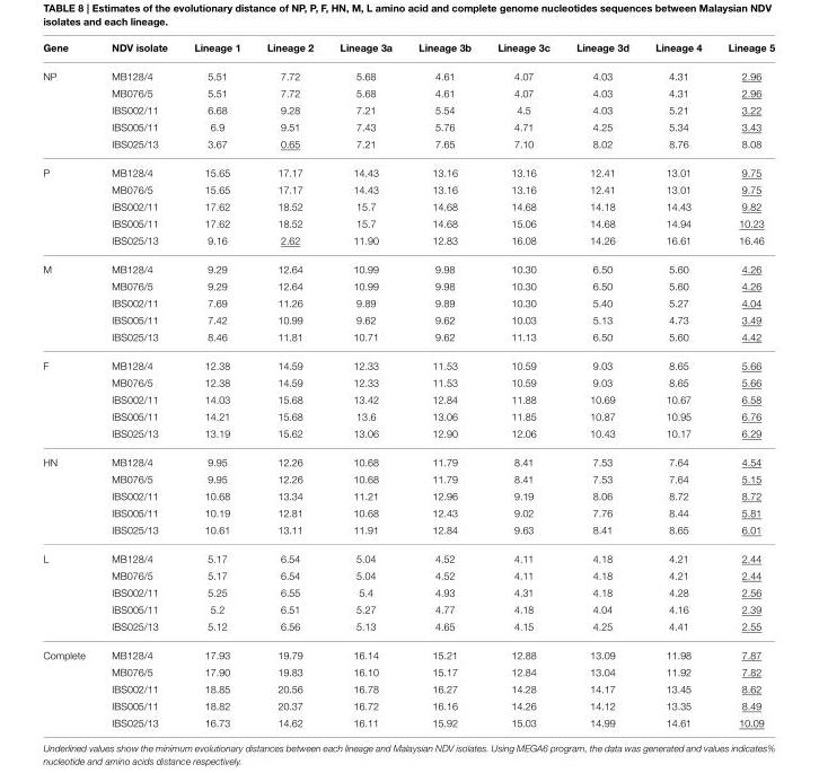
<table><thead><tr><td>Gene</td><td>NDV isolate</td><td>Lineage 1</td><td>Lineage 2</td><td>Lineage 3a</td><td>Lineage 3b</td><td>Lineage 3c</td><td>Lineage 3d</td><td>Lineage 4</td><td>Lineage 5</td></tr></thead><tbody><tr><td rowspan="5">NP</td><td>MB128/4</td><td>5.51</td><td>7.72</td><td>5.68</td><td>4.61</td><td>4.07</td><td>4.03</td><td>4.31</td><td>2.96</td></tr><tr><td>MB076/5</td><td>5.51</td><td>7.72</td><td>5.68</td><td>4.61</td><td>4.07</td><td>4.03</td><td>4.31</td><td>2.96</td></tr><tr><td>IBS002/11</td><td>6.68</td><td>9.28</td><td>7.21</td><td>5.54</td><td>4.5</td><td>4.03</td><td>5.21</td><td>3.22</td></tr><tr><td>IBS005/11</td><td>6.9</td><td>9.51</td><td>7.43</td><td>5.76</td><td>4.71</td><td>4.25</td><td>5.34</td><td>3.43</td></tr><tr><td>IBS025/13</td><td>3.67</td><td>0.65</td><td>7.21</td><td>7.65</td><td>7.10</td><td>8.02</td><td>8.76</td><td>8.08</td></tr><tr><td rowspan="5">P</td><td>MB128/4</td><td>15.65</td><td>17.17</td><td>14.43</td><td>13.16</td><td>13.16</td><td>12.41</td><td>13.01</td><td>9.75</td></tr><tr><td>MB076/5</td><td>15.65</td><td>17.17</td><td>14.43</td><td>13.16</td><td>13.16</td><td>12.41</td><td>13.01</td><td>9.75</td></tr><tr><td>IBS002/11</td><td>17.62</td><td>18.52</td><td>15.7</td><td>14.68</td><td>14.68</td><td>14.18</td><td>14.43</td><td>9.82</td></tr><tr><td>IBS005/11</td><td>17.62</td><td>18.52</td><td>15.7</td><td>14.68</td><td>15.06</td><td>14.68</td><td>14.94</td><td>10.23</td></tr><tr><td>IBS025/13</td><td>9.16</td><td>2.62</td><td>11.90</td><td>12.83</td><td>16.08</td><td>14.26</td><td>16.61</td><td>16.46</td></tr><tr><td rowspan="5">M</td><td>MB128/4</td><td>9.29</td><td>12.64</td><td>10.99</td><td>9.98</td><td>10.30</td><td>6.50</td><td>5.60</td><td>4.26</td></tr><tr><td>MB076/5</td><td>9.29</td><td>12.64</td><td>10.99</td><td>9.98</td><td>10.30</td><td>6.50</td><td>5.60</td><td>4.26</td></tr><tr><td>IBS002/11</td><td>7.69</td><td>11.26</td><td>9.89</td><td>9.89</td><td>10.30</td><td>5.40</td><td>5.27</td><td>4.04</td></tr><tr><td>IBS005/11</td><td>7.42</td><td>10.99</td><td>9.62</td><td>9.62</td><td>10.03</td><td>5.13</td><td>4.73</td><td>3.49</td></tr><tr><td>IBS025/13</td><td>8.46</td><td>11.81</td><td>10.71</td><td>9.62</td><td>11.13</td><td>6.50</td><td>5.60</td><td>4.42</td></tr><tr><td rowspan="5">F</td><td>MB128/4</td><td>12.38</td><td>14.59</td><td>12.33</td><td>11.53</td><td>10.59</td><td>9.03</td><td>8.65</td><td>5.66</td></tr><tr><td>MB076/5</td><td>12.38</td><td>14.59</td><td>12.33</td><td>11.53</td><td>10.59</td><td>9.03</td><td>8.65</td><td>5.66</td></tr><tr><td>IBS002/11</td><td>14.03</td><td>15.68</td><td>13.42</td><td>12.84</td><td>11.88</td><td>10.69</td><td>10.67</td><td>6.58</td></tr><tr><td>IBS005/11</td><td>14.21</td><td>15.68</td><td>13.6</td><td>13.06</td><td>11.85</td><td>10.87</td><td>10.95</td><td>6.76</td></tr><tr><td>IBS025/13</td><td>13.19</td><td>15.62</td><td>13.06</td><td>12.90</td><td>12.06</td><td>10.43</td><td>10.17</td><td>6.29</td></tr><tr><td rowspan="5">HN</td><td>MB128/4</td><td>9.95</td><td>12.26</td><td>10.68</td><td>11.79</td><td>8.41</td><td>7.53</td><td>7.64</td><td>4.54</td></tr><tr><td>MB076/5</td><td>9.95</td><td>12.26</td><td>10.68</td><td>11.79</td><td>8.41</td><td>7.53</td><td>7.64</td><td>5.15</td></tr><tr><td>IBS002/11</td><td>10.68</td><td>13.34</td><td>11.21</td><td>12.96</td><td>9.19</td><td>8.06</td><td>8.72</td><td>8.72</td></tr><tr><td>IBS005/11</td><td>10.19</td><td>12.81</td><td>10.68</td><td>12.43</td><td>9.02</td><td>7.76</td><td>8.44</td><td>5.81</td></tr><tr><td>IBS025/13</td><td>10.61</td><td>13.11</td><td>11.91</td><td>12.84</td><td>9.63</td><td>8.41</td><td>8.65</td><td>6.01</td></tr><tr><td rowspan="5">L</td><td>MB128/4</td><td>5.17</td><td>6.54</td><td>5.04</td><td>4.52</td><td>4.11</td><td>4.18</td><td>4.21</td><td>2.44</td></tr><tr><td>MB076/5</td><td>5.17</td><td>6.54</td><td>5.04</td><td>4.52</td><td>4.11</td><td>4.18</td><td>4.21</td><td>2.44</td></tr><tr><td>IBS002/11</td><td>5.25</td><td>6.55</td><td>5.4</td><td>4.93</td><td>4.31</td><td>4.18</td><td>4.28</td><td>2.56</td></tr><tr><td>IBS005/11</td><td>5.2</td><td>6.51</td><td>5.27</td><td>4.77</td><td>4.18</td><td>4.04</td><td>4.16</td><td>2.39</td></tr><tr><td>IBS025/13</td><td>5.12</td><td>6.56</td><td>5.13</td><td>4.65</td><td>4.15</td><td>4.25</td><td>4.41</td><td>2.55</td></tr><tr><td rowspan="5">Complete</td><td>MB128/4</td><td>17.93</td><td>19.79</td><td>16.14</td><td>15.21</td><td>12.88</td><td>13.09</td><td>11.98</td><td>7.87</td></tr><tr><td>MB076/5</td><td>17.90</td><td>19.83</td><td>16.10</td><td>15.17</td><td>12.84</td><td>13.04</td><td>11.92</td><td>7.82</td></tr><tr><td>IBS002/11</td><td>18.85</td><td>20.56</td><td>16.78</td><td>16.27</td><td>14.28</td><td>14.17</td><td>13.45</td><td>8.62</td></tr><tr><td>IBS005/11</td><td>18.82</td><td>20.37</td><td>16.72</td><td>16.16</td><td>14.26</td><td>14.12</td><td>13.35</td><td>8.49</td></tr><tr><td>IBS025/13</td><td>16.73</td><td>14.62</td><td>16.11</td><td>15.92</td><td>15.03</td><td>14.99</td><td>14.61</td><td>10.09</td></tr></tbody></table>